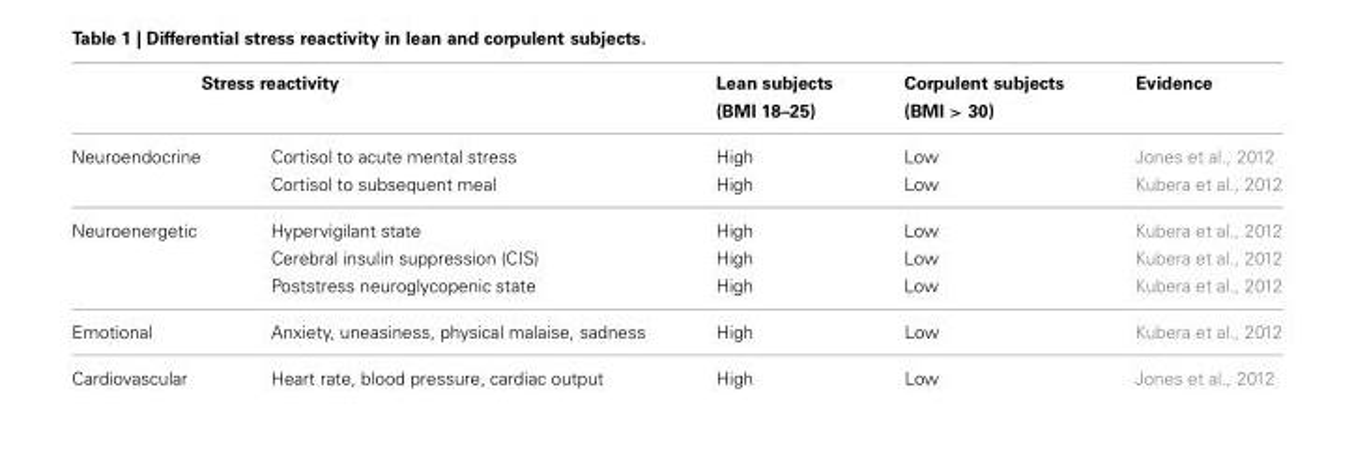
<table><thead><tr><td colspan="2">Stress reactivity</td><td rowspan="2">Lean subjects (BMI 18–25) High</td><td rowspan="2">Corpulent subjects (BMI &gt; 30) Low</td><td rowspan="2">Evidence Jones et al., 2012</td></tr><tr><td>Neuroendocrine</td><td>Cortisol to acute mental stress</td></tr></thead><tbody><tr><td></td><td>Cortisol to subsequent meal</td><td>High</td><td>Low</td><td>Kubera et al., 2012</td></tr><tr><td rowspan="3">Neuroenergetic</td><td>Hypervigilant state</td><td>High</td><td>Low</td><td>Kubera et al., 2012</td></tr><tr><td>Cerebral insulin suppression (CIS)</td><td>High</td><td>Low</td><td>Kubera et al., 2012</td></tr><tr><td>Poststress neuroglycopenic state</td><td>High</td><td>Low</td><td>Kubera et al., 2012</td></tr><tr><td>Emotional</td><td>Anxiety, uneasiness, physical malaise, sadness</td><td>High</td><td>Low</td><td>Kubera et al., 2012</td></tr><tr><td>Cardiovascular</td><td>Heart rate, blood pressure, cardiac output</td><td>High</td><td>Low</td><td>Jones et al., 2012</td></tr></tbody></table>